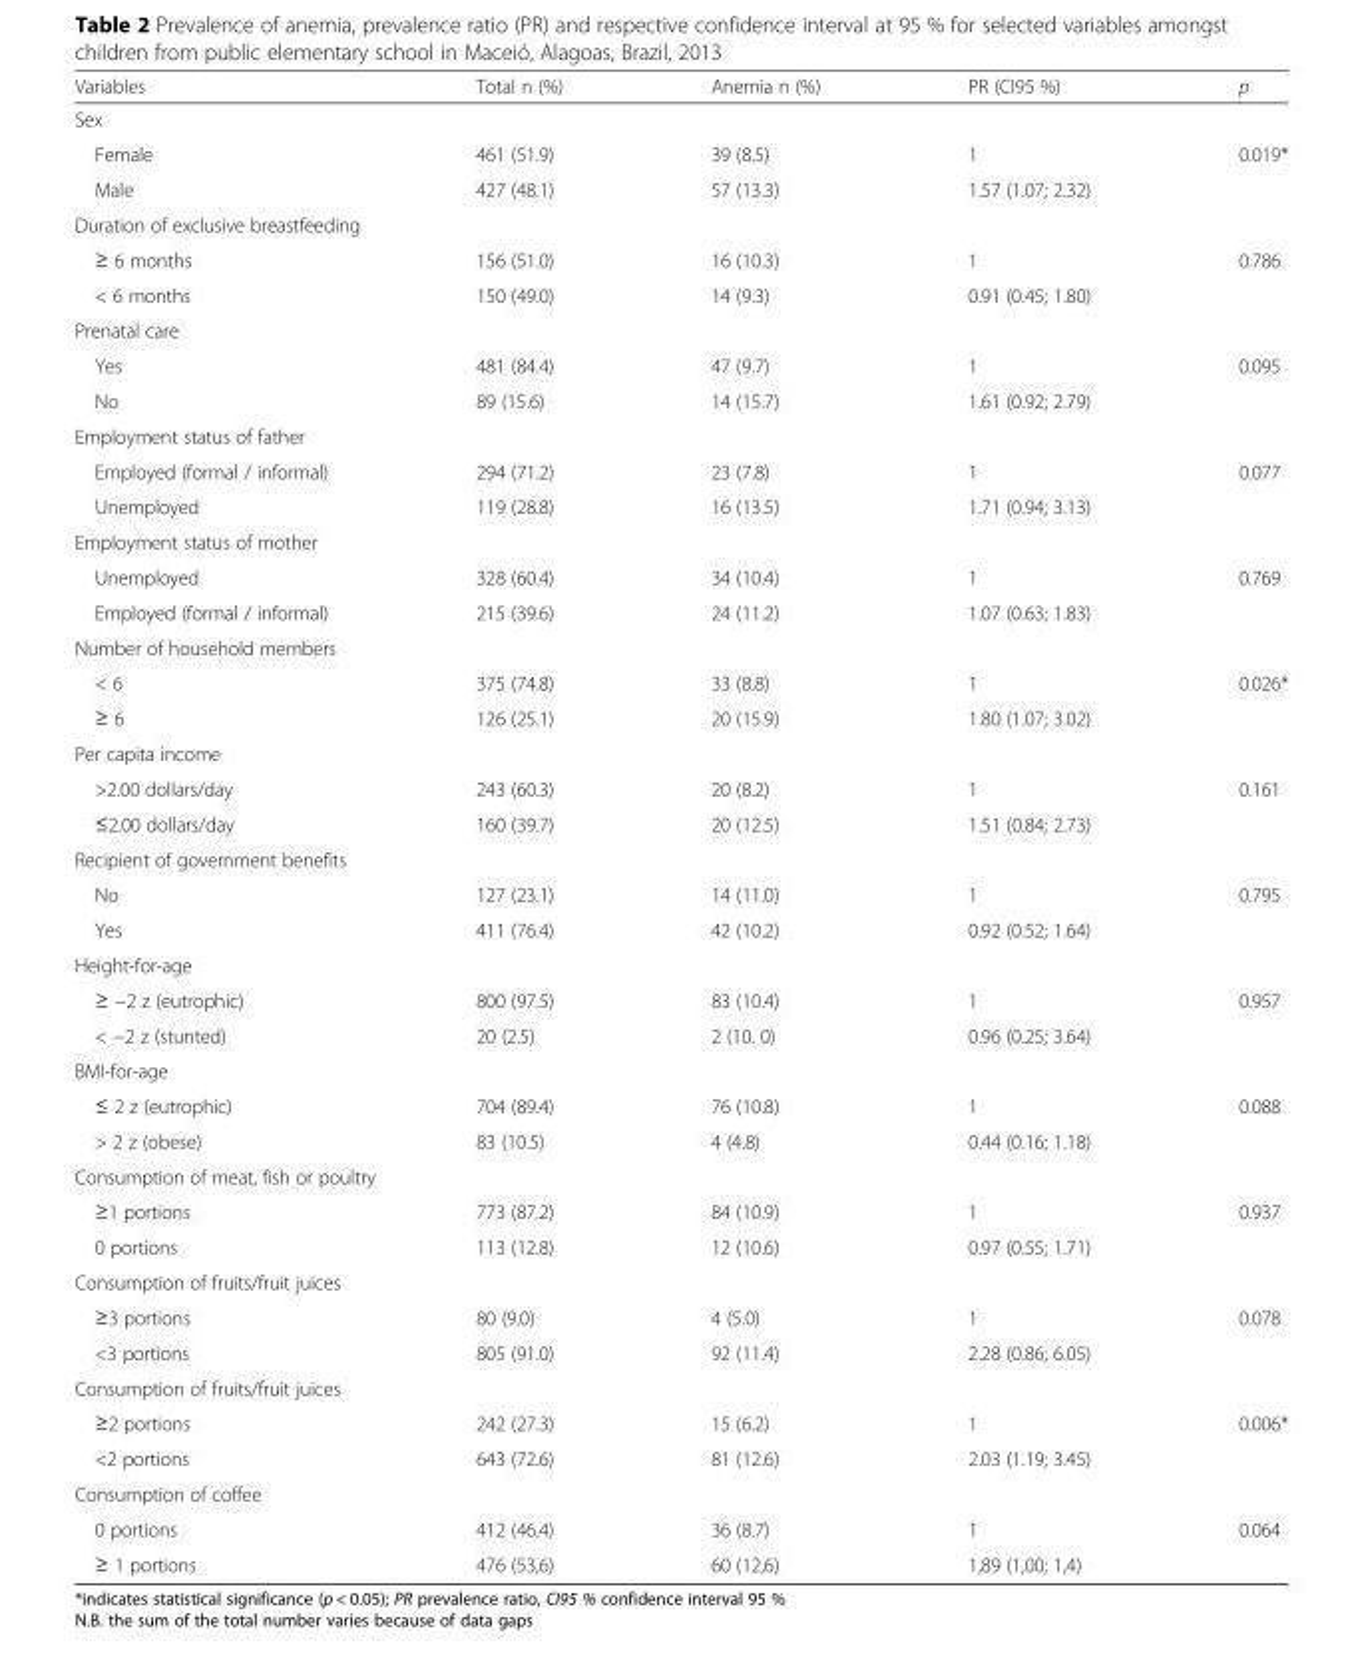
<table><thead><tr><td>Variables</td><td>Total n (%)</td><td>Anemia n (%)</td><td>PR (CI95 %)</td><td>p</td></tr></thead><tbody><tr><td colspan="5">Sex</td></tr><tr><td>Female</td><td>461 (51.9)</td><td>39 (8.5)</td><td>1</td><td rowspan="2">0.019*</td></tr><tr><td>Male</td><td>427 (48.1)</td><td>57 (13.3)</td><td>1.57 (1.07; 2.32)</td></tr><tr><td colspan="5">Duration of exclusive breastfeeding</td></tr><tr><td>≥ 6 months</td><td>156 (51.0)</td><td>16 (10.3)</td><td>1</td><td rowspan="2">0.786</td></tr><tr><td>&lt; 6 months</td><td>150 (49.0)</td><td>14 (9.3)</td><td>0.91 (0.45; 1.80)</td></tr><tr><td colspan="5">Prenatal care</td></tr><tr><td>Yes</td><td>481 (84.4)</td><td>47 (9.7)</td><td>1</td><td rowspan="2">0.095</td></tr><tr><td>No</td><td>89 (15.6)</td><td>14 (15.7)</td><td>1.61 (0.92; 2.79)</td></tr><tr><td colspan="5">Employment status of father</td></tr><tr><td>Employed (formal / informal)</td><td>294 (71.2)</td><td>23 (7.8)</td><td>1</td><td rowspan="2">0.077</td></tr><tr><td>Unemployed</td><td>119 (28.8)</td><td>16 (13.5)</td><td>1.71 (0.94; 3.13)</td></tr><tr><td colspan="5">Employment status of mother</td></tr><tr><td>Unemployed</td><td>328 (60.4)</td><td>34 (10.4)</td><td>1</td><td rowspan="2">0.769</td></tr><tr><td>Employed (formal / informal)</td><td>215 (39.6)</td><td>24 (11.2)</td><td>1.07 (0.63; 1.83)</td></tr><tr><td colspan="5">Number of household members</td></tr><tr><td>&lt; 6</td><td>375 (74.8)</td><td>33 (8.8)</td><td>1</td><td rowspan="2">0.026*</td></tr><tr><td>≥ 6</td><td>126 (25.1)</td><td>20 (15.9)</td><td>1.80 (1.07; 3.02)</td></tr><tr><td colspan="5">Per capita income</td></tr><tr><td>&gt;2.00 dollars/day</td><td>243 (60.3)</td><td>20 (8.2)</td><td>1</td><td rowspan="2">0.161</td></tr><tr><td>≤2.00 dollars/day</td><td>160 (39.7)</td><td>20 (12.5)</td><td>1.51 (0.84; 2.73)</td></tr><tr><td colspan="5">Recipient of government benefits</td></tr><tr><td>No</td><td>127 (23.1)</td><td>14 (11.0)</td><td>1</td><td rowspan="2">0.795</td></tr><tr><td>Yes</td><td>411 (76.4)</td><td>42 (10.2)</td><td>0.92 (0.52; 1.64)</td></tr><tr><td colspan="5">Height-for-age</td></tr><tr><td>≥ −2 z (eutrophic)</td><td>800 (97.5)</td><td>83 (10.4)</td><td>1</td><td rowspan="2">0.957</td></tr><tr><td>&lt; −2 z (stunted)</td><td>20 (2.5)</td><td>2 (10. 0)</td><td>0.96 (0.25; 3.64)</td></tr><tr><td colspan="5">BMI-for-age</td></tr><tr><td>≤ 2 z (eutrophic)</td><td>704 (89.4)</td><td>76 (10.8)</td><td>1</td><td rowspan="2">0.088</td></tr><tr><td>&gt; 2 z (obese)</td><td>83 (10.5)</td><td>4 (4.8)</td><td>0.44 (0.16; 1.18)</td></tr><tr><td colspan="5">Consumption of meat, fish or poultry</td></tr><tr><td>≥1 portions</td><td>773 (87.2)</td><td>84 (10.9)</td><td>1</td><td rowspan="2">0.937</td></tr><tr><td>0 portions</td><td>113 (12.8)</td><td>12 (10.6)</td><td>0.97 (0.55; 1.71)</td></tr><tr><td colspan="5">Consumption of fruits/fruit juices</td></tr><tr><td>≥3 portions</td><td>80 (9.0)</td><td>4 (5.0)</td><td>1</td><td rowspan="2">0.078</td></tr><tr><td>&lt;3 portions</td><td>805 (91.0)</td><td>92 (11.4)</td><td>2.28 (0.86; 6.05)</td></tr><tr><td colspan="5">Consumption of fruits/fruit juices</td></tr><tr><td>≥2 portions</td><td>242 (27.3)</td><td>15 (6.2)</td><td>1</td><td rowspan="2">0.006*</td></tr><tr><td>&lt;2 portions</td><td>643 (72.6)</td><td>81 (12.6)</td><td>2.03 (1.19; 3.45)</td></tr><tr><td colspan="5">Consumption of coffee</td></tr><tr><td>0 portions</td><td>412 (46.4)</td><td>36 (8.7)</td><td>1</td><td rowspan="2">0.064</td></tr><tr><td>≥ 1 portions</td><td>476 (53,6)</td><td>60 (12,6)</td><td>1,89 (1,00; 1,4)</td></tr></tbody></table>